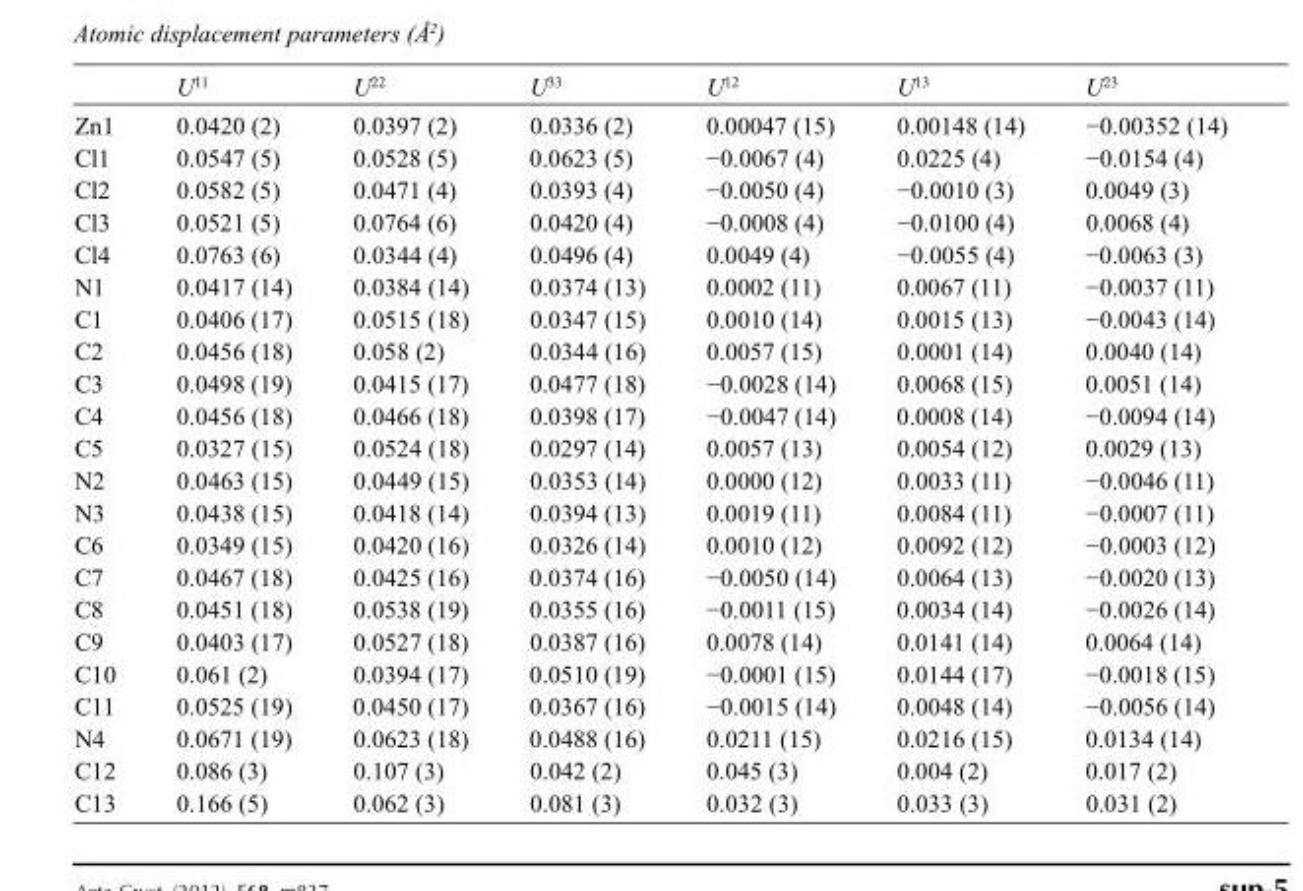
<table><thead><tr><td></td><td>U<sup>11</sup></td><td>U<sup>22</sup></td><td>U<sup>33</sup></td><td>U<sup>12</sup></td><td>U<sup>13</sup></td><td>U<sup>23</sup></td></tr></thead><tbody><tr><td>Zn1</td><td>0.0420 (2)</td><td>0.0397 (2)</td><td>0.0336 (2)</td><td>0.00047 (15)</td><td>0.00148 (14)</td><td>−0.00352 (14)</td></tr><tr><td>Cl1</td><td>0.0547 (5)</td><td>0.0528 (5)</td><td>0.0623 (5)</td><td>−0.0067 (4)</td><td>0.0225 (4)</td><td>−0.0154 (4)</td></tr><tr><td>Cl2</td><td>0.0582 (5)</td><td>0.0471 (4)</td><td>0.0393 (4)</td><td>−0.0050 (4)</td><td>−0.0010 (3)</td><td>0.0049 (3)</td></tr><tr><td>Cl3</td><td>0.0521 (5)</td><td>0.0764 (6)</td><td>0.0420 (4)</td><td>−0.0008 (4)</td><td>−0.0100 (4)</td><td>0.0068 (4)</td></tr><tr><td>Cl4</td><td>0.0763 (6)</td><td>0.0344 (4)</td><td>0.0496 (4)</td><td>0.0049 (4)</td><td>−0.0055 (4)</td><td>−0.0063 (3)</td></tr><tr><td>N1</td><td>0.0417 (14)</td><td>0.0384 (14)</td><td>0.0374 (13)</td><td>0.0002 (11)</td><td>0.0067 (11)</td><td>−0.0037 (11)</td></tr><tr><td>C1</td><td>0.0406 (17)</td><td>0.0515 (18)</td><td>0.0347 (15)</td><td>0.0010 (14)</td><td>0.0015 (13)</td><td>−0.0043 (14)</td></tr><tr><td>C2</td><td>0.0456 (18)</td><td>0.058 (2)</td><td>0.0344 (16)</td><td>0.0057 (15)</td><td>0.0001 (14)</td><td>0.0040 (14)</td></tr><tr><td>C3</td><td>0.0498 (19)</td><td>0.0415 (17)</td><td>0.0477 (18)</td><td>−0.0028 (14)</td><td>0.0068 (15)</td><td>0.0051 (14)</td></tr><tr><td>C4</td><td>0.0456 (18)</td><td>0.0466 (18)</td><td>0.0398 (17)</td><td>−0.0047 (14)</td><td>0.0008 (14)</td><td>−0.0094 (14)</td></tr><tr><td>C5</td><td>0.0327 (15)</td><td>0.0524 (18)</td><td>0.0297 (14)</td><td>0.0057 (13)</td><td>0.0054 (12)</td><td>0.0029 (13)</td></tr><tr><td>N2</td><td>0.0463 (15)</td><td>0.0449 (15)</td><td>0.0353 (14)</td><td>0.0000 (12)</td><td>0.0033 (11)</td><td>−0.0046 (11)</td></tr><tr><td>N3</td><td>0.0438 (15)</td><td>0.0418 (14)</td><td>0.0394 (13)</td><td>0.0019 (11)</td><td>0.0084 (11)</td><td>−0.0007 (11)</td></tr><tr><td>C6</td><td>0.0349 (15)</td><td>0.0420 (16)</td><td>0.0326 (14)</td><td>0.0010 (12)</td><td>0.0092 (12)</td><td>−0.0003 (12)</td></tr><tr><td>C7</td><td>0.0467 (18)</td><td>0.0425 (16)</td><td>0.0374 (16)</td><td>−0.0050 (14)</td><td>0.0064 (13)</td><td>−0.0020 (13)</td></tr><tr><td>C8</td><td>0.0451 (18)</td><td>0.0538 (19)</td><td>0.0355 (16)</td><td>−0.0011 (15)</td><td>0.0034 (14)</td><td>−0.0026 (14)</td></tr><tr><td>C9</td><td>0.0403 (17)</td><td>0.0527 (18)</td><td>0.0387 (16)</td><td>0.0078 (14)</td><td>0.0141 (14)</td><td>0.0064 (14)</td></tr><tr><td>C10</td><td>0.061 (2)</td><td>0.0394 (17)</td><td>0.0510 (19)</td><td>−0.0001 (15)</td><td>0.0144 (17)</td><td>−0.0018 (15)</td></tr><tr><td>C11</td><td>0.0525 (19)</td><td>0.0450 (17)</td><td>0.0367 (16)</td><td>−0.0015 (14)</td><td>0.0048 (14)</td><td>−0.0056 (14)</td></tr><tr><td>N4</td><td>0.0671 (19)</td><td>0.0623 (18)</td><td>0.0488 (16)</td><td>0.0211 (15)</td><td>0.0216 (15)</td><td>0.0134 (14)</td></tr><tr><td>C12</td><td>0.086 (3)</td><td>0.107 (3)</td><td>0.042 (2)</td><td>0.045 (3)</td><td>0.004 (2)</td><td>0.017 (2)</td></tr><tr><td>C13</td><td>0.166 (5)</td><td>0.062 (3)</td><td>0.081 (3)</td><td>0.032 (3)</td><td>0.033 (3)</td><td>0.031 (2)</td></tr></tbody></table>